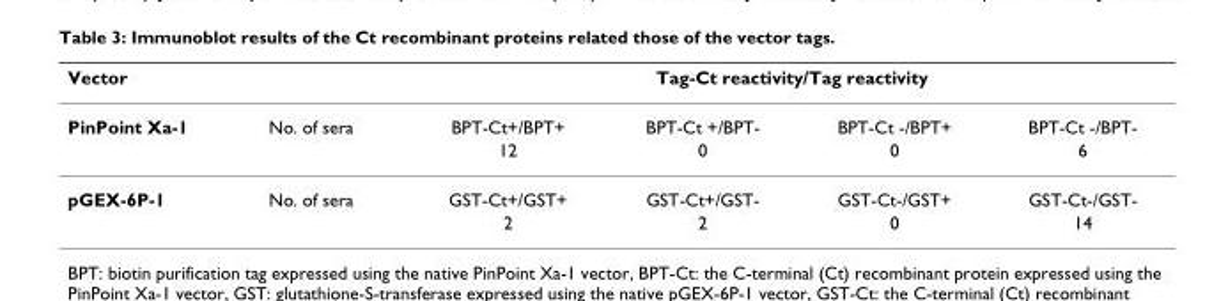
<table><thead><tr><td rowspan="2">Vector PinPoint Xa-1</td><td rowspan="2">No. of sera</td><td colspan="4">Tag-Ct reactivity/Tag reactivity</td></tr><tr><td>BPT-Ct+/BPT+</td><td>BPT-Ct +/BPT-</td><td>BPT-Ct -/BPT+</td><td>BPT-Ct -/BPT-</td></tr></thead><tbody><tr><td></td><td></td><td>12</td><td>0</td><td>0</td><td>6</td></tr><tr><td rowspan="2">pGEX-6P-1</td><td>No. of sera</td><td>GST-Ct+/GST+</td><td>GST-Ct+/GST-</td><td>GST-Ct-/GST+</td><td>GST-Ct-/GST-</td></tr><tr><td></td><td>2</td><td>2</td><td>0</td><td>14</td></tr></tbody></table>